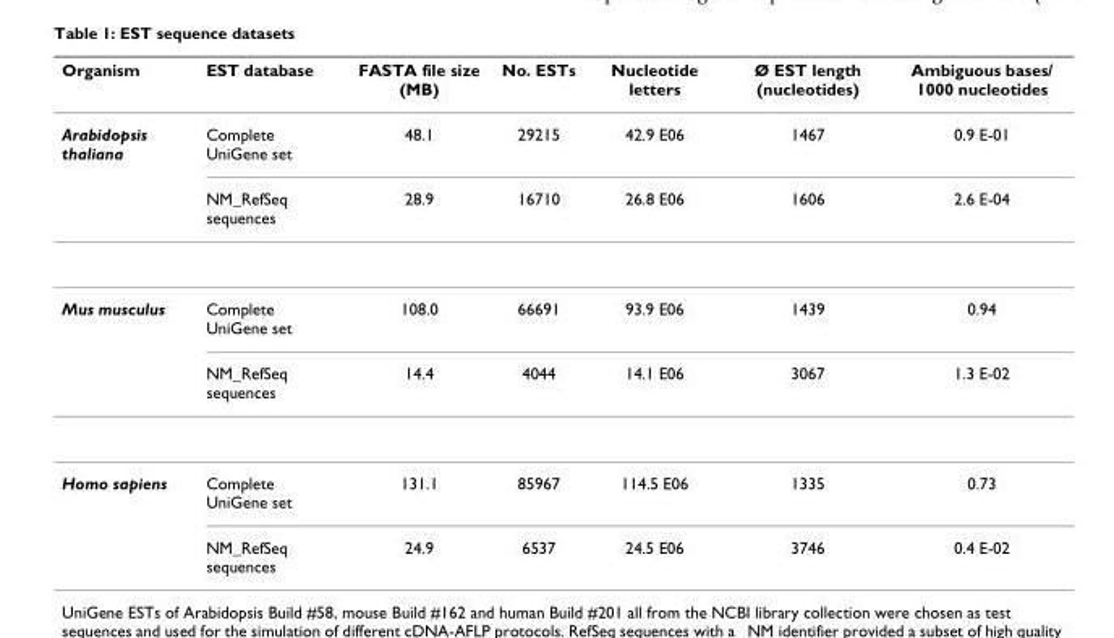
<table><thead><tr><td>Organism</td><td>EST database</td><td>FASTA file size (MB)</td><td>No. ESTs</td><td>Nucleotide letters</td><td>Ø EST length (nucleotides)</td><td>Ambiguous bases/ 1000 nucleotides</td></tr></thead><tbody><tr><td rowspan="2">Arabidopsis thaliana</td><td>Complete UniGene set</td><td>48.1</td><td>29215</td><td>42.9 E06</td><td>1467</td><td>0.9 E-01</td></tr><tr><td>NM_RefSeq sequences</td><td>28.9</td><td>16710</td><td>26.8 E06</td><td>1606</td><td>2.6 E-04</td></tr><tr><td rowspan="2">Mus musculus</td><td>Complete UniGene set</td><td>108.0</td><td>66691</td><td>93.9 E06</td><td>1439</td><td>0.94</td></tr><tr><td>NM_RefSeq sequences</td><td>14.4</td><td>4044</td><td>14.1 E06</td><td>3067</td><td>1.3 E-02</td></tr><tr><td rowspan="2">Homo sapiens</td><td>Complete UniGene set</td><td>131.1</td><td>85967</td><td>114.5 E06</td><td>1335</td><td>0.73</td></tr><tr><td>NM_RefSeq sequences</td><td>24.9</td><td>6537</td><td>24.5 E06</td><td>3746</td><td>0.4 E-02</td></tr></tbody></table>